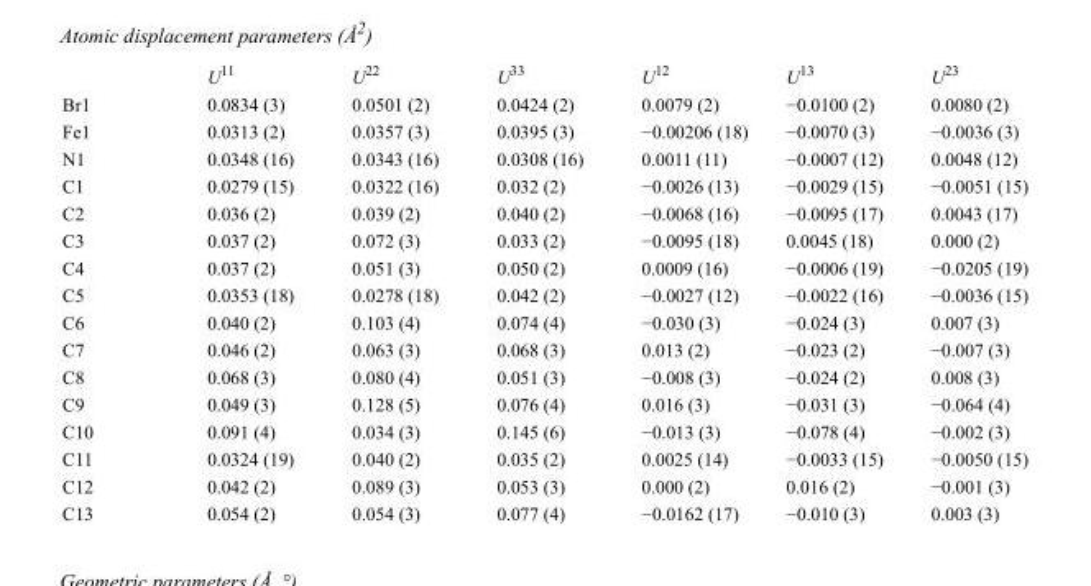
<table><thead><tr><td></td><td>U<sup>11</sup></td><td>U<sup>22</sup></td><td>U<sup>33</sup></td><td>U<sup>12</sup></td><td>U<sup>13</sup></td><td>U<sup>23</sup></td></tr></thead><tbody><tr><td>Br1</td><td>0.0834 (3)</td><td>0.0501 (2)</td><td>0.0424 (2)</td><td>0.0079 (2)</td><td>−0.0100 (2)</td><td>0.0080 (2)</td></tr><tr><td>Fe1</td><td>0.0313 (2)</td><td>0.0357 (3)</td><td>0.0395 (3)</td><td>−0.00206 (18)</td><td>−0.0070 (3)</td><td>−0.0036 (3)</td></tr><tr><td>N1</td><td>0.0348 (16)</td><td>0.0343 (16)</td><td>0.0308 (16)</td><td>0.0011 (11)</td><td>−0.0007 (12)</td><td>0.0048 (12)</td></tr><tr><td>C1</td><td>0.0279 (15)</td><td>0.0322 (16)</td><td>0.032 (2)</td><td>−0.0026 (13)</td><td>−0.0029 (15)</td><td>−0.0051 (15)</td></tr><tr><td>C2</td><td>0.036 (2)</td><td>0.039 (2)</td><td>0.040 (2)</td><td>−0.0068 (16)</td><td>−0.0095 (17)</td><td>0.0043 (17)</td></tr><tr><td>C3</td><td>0.037 (2)</td><td>0.072 (3)</td><td>0.033 (2)</td><td>−0.0095 (18)</td><td>0.0045 (18)</td><td>0.000 (2)</td></tr><tr><td>C4</td><td>0.037 (2)</td><td>0.051 (3)</td><td>0.050 (2)</td><td>0.0009 (16)</td><td>−0.0006 (19)</td><td>−0.0205 (19)</td></tr><tr><td>C5</td><td>0.0353 (18)</td><td>0.0278 (18)</td><td>0.042 (2)</td><td>−0.0027 (12)</td><td>−0.0022 (16)</td><td>−0.0036 (15)</td></tr><tr><td>C6</td><td>0.040 (2)</td><td>0.103 (4)</td><td>0.074 (4)</td><td>−0.030 (3)</td><td>−0.024 (3)</td><td>0.007 (3)</td></tr><tr><td>C7</td><td>0.046 (2)</td><td>0.063 (3)</td><td>0.068 (3)</td><td>0.013 (2)</td><td>−0.023 (2)</td><td>−0.007 (3)</td></tr><tr><td>C8</td><td>0.068 (3)</td><td>0.080 (4)</td><td>0.051 (3)</td><td>−0.008 (3)</td><td>−0.024 (2)</td><td>0.008 (3)</td></tr><tr><td>C9</td><td>0.049 (3)</td><td>0.128 (5)</td><td>0.076 (4)</td><td>0.016 (3)</td><td>−0.031 (3)</td><td>−0.064 (4)</td></tr><tr><td>C10</td><td>0.091 (4)</td><td>0.034 (3)</td><td>0.145 (6)</td><td>−0.013 (3)</td><td>−0.078 (4)</td><td>−0.002 (3)</td></tr><tr><td>C11</td><td>0.0324 (19)</td><td>0.040 (2)</td><td>0.035 (2)</td><td>0.0025 (14)</td><td>−0.0033 (15)</td><td>−0.0050 (15)</td></tr><tr><td>C12</td><td>0.042 (2)</td><td>0.089 (3)</td><td>0.053 (3)</td><td>0.000 (2)</td><td>0.016 (2)</td><td>−0.001 (3)</td></tr><tr><td>C13</td><td>0.054 (2)</td><td>0.054 (3)</td><td>0.077 (4)</td><td>−0.0162 (17)</td><td>−0.010 (3)</td><td>0.003 (3)</td></tr></tbody></table>